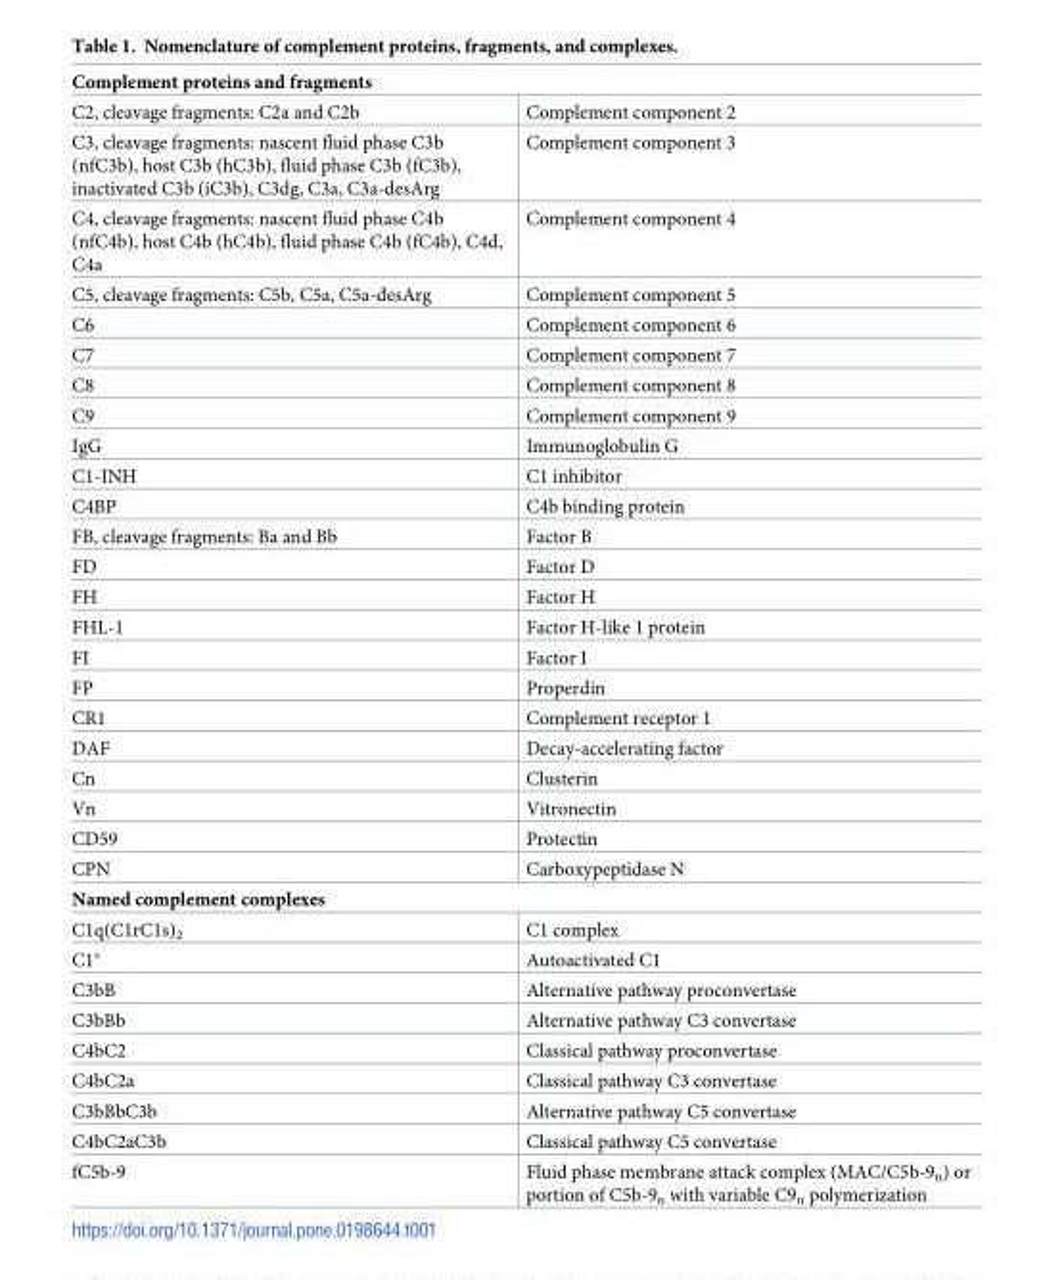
<table><tbody><tr><td colspan="2">Complement proteins and fragments</td></tr><tr><td>C2, cleavage fragments: C2a and C2b</td><td>Complement component 2</td></tr><tr><td>C3, cleavage fragments: nascent fluid phase C3b (nfC3b), host C3b (hC3b), fluid phase C3b (fC3b), inactivated C3b (iC3b), C3dg, C3a, C3a-desArg</td><td>Complement component 3</td></tr><tr><td>C4, cleavage fragments: nascent fluid phase C4b (nfC4b), host C4b (hC4b), fluid phase C4b (fC4b), C4d, C4a</td><td>Complement component 4</td></tr><tr><td>C5, cleavage fragments: C5b, C5a, C5a-desArg</td><td>Complement component 5</td></tr><tr><td>C6</td><td>Complement component 6</td></tr><tr><td>C7</td><td>Complement component 7</td></tr><tr><td>C8</td><td>Complement component 8</td></tr><tr><td>C9</td><td>Complement component 9</td></tr><tr><td>IgG</td><td>Immunoglobulin G</td></tr><tr><td>C1-INH</td><td>C1 inhibitor</td></tr><tr><td>C4BP</td><td>C4b binding protein</td></tr><tr><td>FB, cleavage fragments: Ba and Bb</td><td>Factor B</td></tr><tr><td>FD</td><td>Factor D</td></tr><tr><td>FH</td><td>Factor H</td></tr><tr><td>FHL-1</td><td>Factor H-like 1 protein</td></tr><tr><td>FI</td><td>Factor I</td></tr><tr><td>FP</td><td>Properdin</td></tr><tr><td>CR1</td><td>Complement receptor 1</td></tr><tr><td>DAF</td><td>Decay-accelerating factor</td></tr><tr><td>Cn</td><td>Clusterin</td></tr><tr><td>Vn</td><td>Vitronectin</td></tr><tr><td>CD59</td><td>Protectin</td></tr><tr><td>CPN</td><td>Carboxypeptidase N</td></tr><tr><td colspan="2">Named complement complexes</td></tr><tr><td>C1q(C1rC1s)<sub>2</sub></td><td>C1 complex</td></tr><tr><td>C1*</td><td>Autoactivated C1</td></tr><tr><td>C3bB</td><td>Alternative pathway proconvertase</td></tr><tr><td>C3bBb</td><td>Alternative pathway C3 convertase</td></tr><tr><td>C4bC2</td><td>Classical pathway proconvertase</td></tr><tr><td>C4bC2a</td><td>Classical pathway C3 convertase</td></tr><tr><td>C3bBbC3b</td><td>Alternative pathway C5 convertase</td></tr><tr><td>C4bC2aC3b</td><td>Classical pathway C5 convertase</td></tr><tr><td>fC5b-9</td><td>Fluid phase membrane attack complex (MAC/C5b-9<sub>n</sub>) or portion of C5b-9<sub>n</sub> with variable C9<sub>n</sub> polymerization</td></tr></tbody></table>